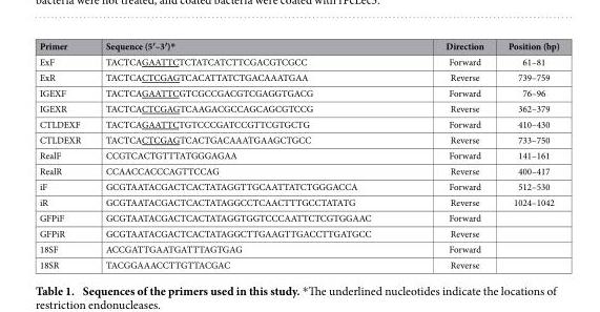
<table><thead><tr><td>Primer</td><td>Sequence (5′–3′)*</td><td>Direction</td><td>Position (bp)</td></tr></thead><tbody><tr><td>ExF</td><td>TACTCAGAATTCTCTATCATCTTCGACGTCGCC</td><td>Forward</td><td>61–81</td></tr><tr><td>ExR</td><td>TACTCACTCGAGTCACATTATCTGACAAATGAA</td><td>Reverse</td><td>739–759</td></tr><tr><td>IGEXF</td><td>TACTCAGAATTCGTCGCCGACGTCGAGGTGACG</td><td>Forward</td><td>76–96</td></tr><tr><td>IGEXR</td><td>TACTCACTCGAGTCAAGACGCCAGCAGCGTCCG</td><td>Reverse</td><td>362–379</td></tr><tr><td>CTLDEXF</td><td>TACTCAGAATTCTGTCCCGATCCGTTCGTGCTG</td><td>Forward</td><td>410–430</td></tr><tr><td>CTLDEXR</td><td>TACTCACTCGAGTCACTGACAAATGAAGCTGCC</td><td>Reverse</td><td>733–750</td></tr><tr><td>RealF</td><td>CCGTCACTGTTTATGGGAGAA</td><td>Forward</td><td>141–161</td></tr><tr><td>RealR</td><td>CCAACCACCCAGTTCCAG</td><td>Reverse</td><td>400–417</td></tr><tr><td>iF</td><td>GCGTAATACGACTCACTATAGGTTGCAATTATCTGGGACCA</td><td>Forward</td><td>512–530</td></tr><tr><td>iR</td><td>GCGTAATACGACTCACTATAGGCCTCAACTTTGCCTATATG</td><td>Reverse</td><td>1024–1042</td></tr><tr><td>GFPiF</td><td>GCGTAATACGACTCACTATAGGTGGTCCCAATTCTCGTGGAAC</td><td>Forward</td><td></td></tr><tr><td>GFPiR</td><td>GCGTAATACGACTCACTATAGGCTTGAAGTTGACCTTGATGCC</td><td>Reverse</td><td></td></tr><tr><td>18SF</td><td>ACCGATTGAATGATTTAGTGAG</td><td>Forward</td><td></td></tr><tr><td>18SR</td><td>TACGGAAACCTTGTTACGAC</td><td>Reverse</td><td></td></tr></tbody></table>